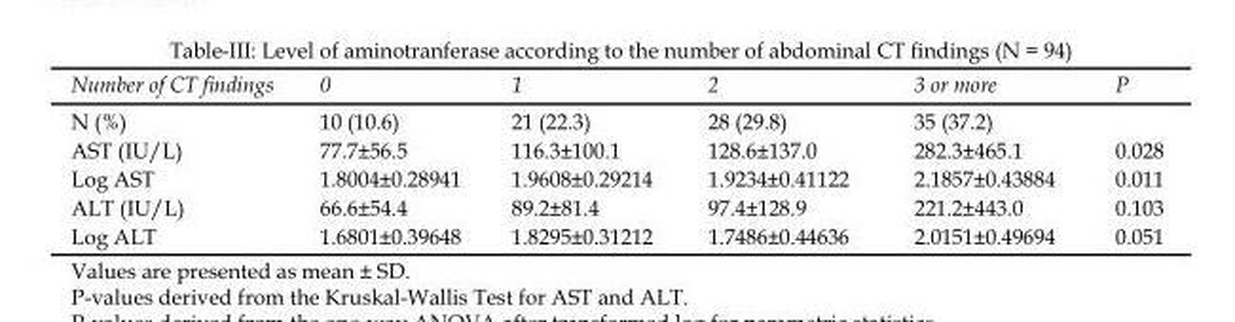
<table><thead><tr><td>Number of CT findings</td><td>0</td><td>1</td><td>2</td><td>3 or more</td><td>P</td></tr></thead><tbody><tr><td>N (%)</td><td>10 (10.6)</td><td>21 (22.3)</td><td>28 (29.8)</td><td>35 (37.2)</td><td></td></tr><tr><td>AST (IU/L)</td><td>77.7±56.5</td><td>116.3±100.1</td><td>128.6±137.0</td><td>282.3±465.1</td><td>0.028</td></tr><tr><td>Log AST</td><td>1.8004±0.28941</td><td>1.9608±0.29214</td><td>1.9234±0.41122</td><td>2.1857±0.43884</td><td>0.011</td></tr><tr><td>ALT (IU/L)</td><td>66.6±54.4</td><td>89.2±81.4</td><td>97.4±128.9</td><td>221.2±443.0</td><td>0.103</td></tr><tr><td>Log ALT</td><td>1.6801±0.39648</td><td>1.8295±0.31212</td><td>1.7486±0.44636</td><td>2.0151±0.49694</td><td>0.051</td></tr></tbody></table>